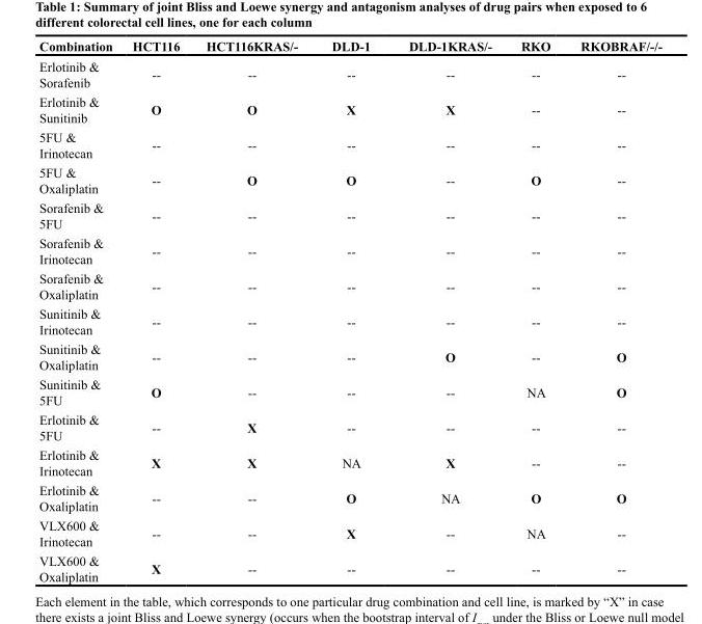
<table><thead><tr><td>Combination</td><td>HCT116</td><td>HCT116KRAS/-</td><td>DLD-1</td><td>DLD-1KRAS/-</td><td>RKO</td><td>RKOBRAF/-/-</td></tr></thead><tbody><tr><td>Erlotinib &amp; Sorafenib</td><td>--</td><td>--</td><td>--</td><td>--</td><td>--</td><td>--</td></tr><tr><td>Erlotinib &amp; Sunitinib</td><td>O</td><td>O</td><td>X</td><td>X</td><td>--</td><td>--</td></tr><tr><td>5FU &amp; Irinotecan</td><td>--</td><td>--</td><td>--</td><td>--</td><td>--</td><td>--</td></tr><tr><td>5FU &amp; Oxaliplatin</td><td>--</td><td>O</td><td>O</td><td>--</td><td>O</td><td>--</td></tr><tr><td>Sorafenib &amp; 5FU</td><td>--</td><td>--</td><td>--</td><td>--</td><td>--</td><td>--</td></tr><tr><td>Sorafenib &amp; Irinotecan</td><td>--</td><td>--</td><td>--</td><td>--</td><td>--</td><td>--</td></tr><tr><td>Sorafenib &amp; Oxaliplatin</td><td>--</td><td>--</td><td>--</td><td>--</td><td>--</td><td>--</td></tr><tr><td>Sunitinib &amp; Irinotecan</td><td>--</td><td>--</td><td>--</td><td>--</td><td>--</td><td>--</td></tr><tr><td>Sunitinib &amp; Oxaliplatin</td><td>--</td><td>--</td><td>--</td><td>O</td><td>--</td><td>O</td></tr><tr><td>Sunitinib &amp; 5FU</td><td>O</td><td>--</td><td>--</td><td>--</td><td>NA</td><td>O</td></tr><tr><td>Erlotinib &amp; 5FU</td><td>--</td><td>X</td><td>--</td><td>--</td><td>--</td><td>--</td></tr><tr><td>Erlotinib &amp; Irinotecan</td><td>X</td><td>X</td><td>NA</td><td>X</td><td>--</td><td>--</td></tr><tr><td>Erlotinib &amp; Oxaliplatin</td><td>--</td><td>--</td><td>O</td><td>NA</td><td>O</td><td>O</td></tr><tr><td>VLX600 &amp; Irinotecan</td><td>--</td><td>--</td><td>X</td><td>--</td><td>NA</td><td>--</td></tr><tr><td>VLX600 &amp; Oxaliplatin</td><td>X</td><td>--</td><td>--</td><td>--</td><td>--</td><td>--</td></tr></tbody></table>